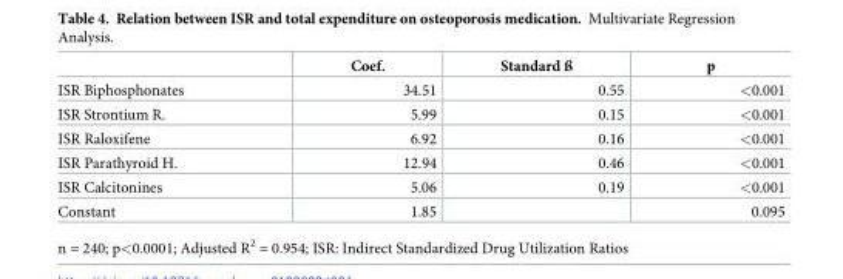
<table><thead><tr><td></td><td>Coef.</td><td>Standard ß</td><td>p</td></tr></thead><tbody><tr><td>ISR Biphosphonates</td><td>34.51</td><td>0.55</td><td>&lt;0.001</td></tr><tr><td>ISR Strontium R.</td><td>5.99</td><td>0.15</td><td>&lt;0.001</td></tr><tr><td>ISR Raloxifene</td><td>6.92</td><td>0.16</td><td>&lt;0.001</td></tr><tr><td>ISR Parathyroid H.</td><td>12.94</td><td>0.46</td><td>&lt;0.001</td></tr><tr><td>ISR Calcitonines</td><td>5.06</td><td>0.19</td><td>&lt;0.001</td></tr><tr><td>Constant</td><td>1.85</td><td></td><td>0.095</td></tr></tbody></table>